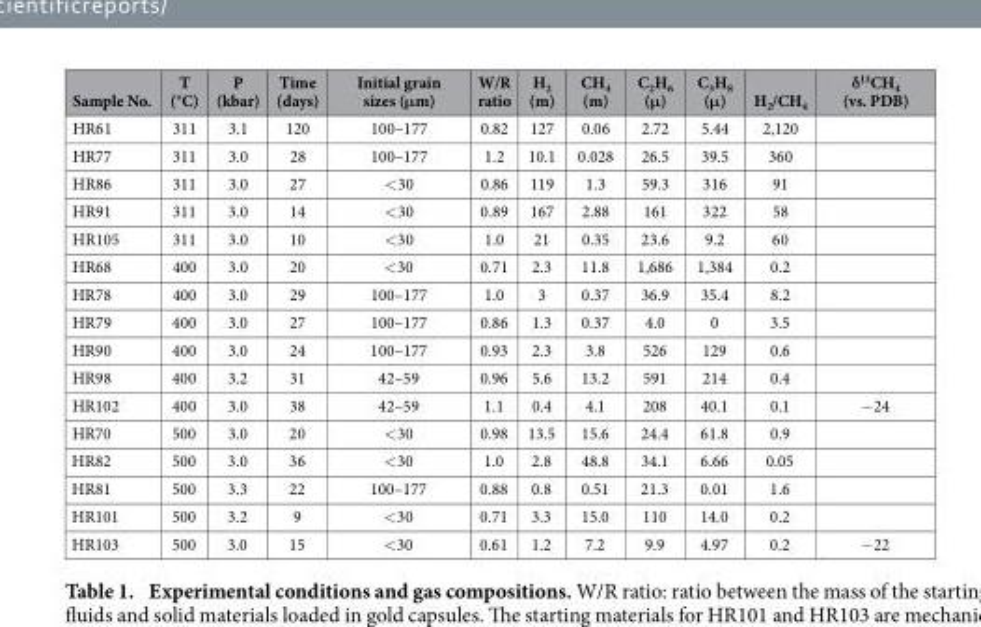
<table><thead><tr><td>Sample No.</td><td>T (°C)</td><td>P (kbar)</td><td>Time (days)</td><td>Initial grain sizes (μm)</td><td>W/R ratio</td><td>H<sub>2</sub> (m)</td><td>CH<sub>4</sub> (m)</td><td>C<sub>2</sub>H<sub>6</sub> (μ)</td><td>C<sub>3</sub>H<sub>8</sub> (μ)</td><td>H<sub>2</sub>/CH<sub>4</sub></td><td>δ<sup>13</sup>CH<sub>4</sub> (vs. PDB)</td></tr></thead><tbody><tr><td>HR61</td><td>311</td><td>3.1</td><td>120</td><td>100–177</td><td>0.82</td><td>127</td><td>0.06</td><td>2.72</td><td>5.44</td><td>2,120</td><td></td></tr><tr><td>HR77</td><td>311</td><td>3.0</td><td>28</td><td>100–177</td><td>1.2</td><td>10.1</td><td>0.028</td><td>26.5</td><td>39.5</td><td>360</td><td></td></tr><tr><td>HR86</td><td>311</td><td>3.0</td><td>27</td><td>&lt; 30</td><td>0.86</td><td>119</td><td>1.3</td><td>59.3</td><td>316</td><td>91</td><td></td></tr><tr><td>HR91</td><td>311</td><td>3.0</td><td>14</td><td>&lt; 30</td><td>0.89</td><td>167</td><td>2.88</td><td>161</td><td>322</td><td>58</td><td></td></tr><tr><td>HR105</td><td>311</td><td>3.0</td><td>10</td><td>&lt; 30</td><td>1.0</td><td>21</td><td>0.35</td><td>23.6</td><td>9.2</td><td>60</td><td></td></tr><tr><td>HR68</td><td>400</td><td>3.0</td><td>20</td><td>&lt; 30</td><td>0.71</td><td>2.3</td><td>11.8</td><td>1,686</td><td>1,384</td><td>0.2</td><td></td></tr><tr><td>HR78</td><td>400</td><td>3.0</td><td>29</td><td>100–177</td><td>1.0</td><td>3</td><td>0.37</td><td>36.9</td><td>35.4</td><td>8.2</td><td></td></tr><tr><td>HR79</td><td>400</td><td>3.0</td><td>27</td><td>100–177</td><td>0.86</td><td>1.3</td><td>0.37</td><td>4.0</td><td>0</td><td>3.5</td><td></td></tr><tr><td>HR90</td><td>400</td><td>3.0</td><td>24</td><td>100–177</td><td>0.93</td><td>2.3</td><td>3.8</td><td>526</td><td>129</td><td>0.6</td><td></td></tr><tr><td>HR98</td><td>400</td><td>3.2</td><td>31</td><td>42–59</td><td>0.96</td><td>5.6</td><td>13.2</td><td>591</td><td>214</td><td>0.4</td><td></td></tr><tr><td>HR102</td><td>400</td><td>3.0</td><td>38</td><td>42–59</td><td>1.1</td><td>0.4</td><td>4.1</td><td>208</td><td>40.1</td><td>0.1</td><td>− 24</td></tr><tr><td>HR70</td><td>500</td><td>3.0</td><td>20</td><td>&lt; 30</td><td>0.98</td><td>13.5</td><td>15.6</td><td>24.4</td><td>61.8</td><td>0.9</td><td></td></tr><tr><td>HR82</td><td>500</td><td>3.0</td><td>36</td><td>&lt; 30</td><td>1.0</td><td>2.8</td><td>48.8</td><td>34.1</td><td>6.66</td><td>0.05</td><td></td></tr><tr><td>HR81</td><td>500</td><td>3.3</td><td>22</td><td>100–177</td><td>0.88</td><td>0.8</td><td>0.51</td><td>21.3</td><td>0.01</td><td>1.6</td><td></td></tr><tr><td>HR101</td><td>500</td><td>3.2</td><td>9</td><td>&lt; 30</td><td>0.71</td><td>3.3</td><td>15.0</td><td>110</td><td>14.0</td><td>0.2</td><td></td></tr><tr><td>HR103</td><td>500</td><td>3.0</td><td>15</td><td>&lt; 30</td><td>0.61</td><td>1.2</td><td>7.2</td><td>9.9</td><td>4.97</td><td>0.2</td><td>− 22</td></tr></tbody></table>